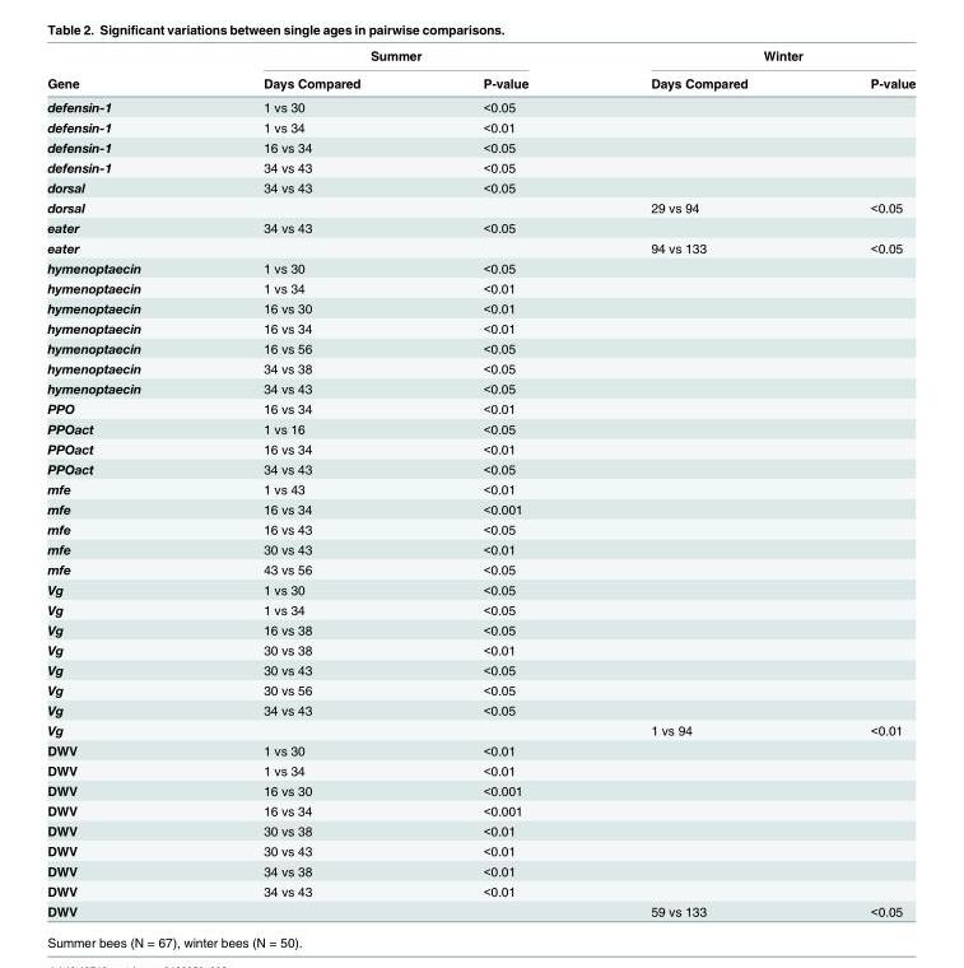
<table><thead><tr><td rowspan="2">Gene</td><td colspan="2">Summer</td><td colspan="2">Winter</td></tr><tr><td>Days Compared</td><td>P-value</td><td>Days Compared</td><td>P-value</td></tr></thead><tbody><tr><td>defensin-1</td><td>1 vs 30</td><td>&lt;0.05</td><td></td><td></td></tr><tr><td>defensin-1</td><td>1 vs 34</td><td>&lt;0.01</td><td></td><td></td></tr><tr><td>defensin-1</td><td>16 vs 34</td><td>&lt;0.05</td><td></td><td></td></tr><tr><td>defensin-1</td><td>34 vs 43</td><td>&lt;0.05</td><td></td><td></td></tr><tr><td>dorsal</td><td>34 vs 43</td><td>&lt;0.05</td><td></td><td></td></tr><tr><td>dorsal</td><td></td><td></td><td>29 vs 94</td><td>&lt;0.05</td></tr><tr><td>eater</td><td>34 vs 43</td><td>&lt;0.05</td><td></td><td></td></tr><tr><td>eater</td><td></td><td></td><td>94 vs 133</td><td>&lt;0.05</td></tr><tr><td>hymenoptaecin</td><td>1 vs 30</td><td>&lt;0.05</td><td></td><td></td></tr><tr><td>hymenoptaecin</td><td>1 vs 34</td><td>&lt;0.01</td><td></td><td></td></tr><tr><td>hymenoptaecin</td><td>16 vs 30</td><td>&lt;0.01</td><td></td><td></td></tr><tr><td>hymenoptaecin</td><td>16 vs 34</td><td>&lt;0.01</td><td></td><td></td></tr><tr><td>hymenoptaecin</td><td>16 vs 56</td><td>&lt;0.05</td><td></td><td></td></tr><tr><td>hymenoptaecin</td><td>34 vs 38</td><td>&lt;0.05</td><td></td><td></td></tr><tr><td>hymenoptaecin</td><td>34 vs 43</td><td>&lt;0.05</td><td></td><td></td></tr><tr><td>PPO</td><td>16 vs 34</td><td>&lt;0.01</td><td></td><td></td></tr><tr><td>PPOact</td><td>1 vs 16</td><td>&lt;0.05</td><td></td><td></td></tr><tr><td>PPOact</td><td>16 vs 34</td><td>&lt;0.01</td><td></td><td></td></tr><tr><td>PPOact</td><td>34 vs 43</td><td>&lt;0.05</td><td></td><td></td></tr><tr><td>mfe</td><td>1 vs 43</td><td>&lt;0.01</td><td></td><td></td></tr><tr><td>mfe</td><td>16 vs 34</td><td>&lt;0.001</td><td></td><td></td></tr><tr><td>mfe</td><td>16 vs 43</td><td>&lt;0.05</td><td></td><td></td></tr><tr><td>mfe</td><td>30 vs 43</td><td>&lt;0.01</td><td></td><td></td></tr><tr><td>mfe</td><td>43 vs 56</td><td>&lt;0.05</td><td></td><td></td></tr><tr><td>Vg</td><td>1 vs 30</td><td>&lt;0.05</td><td></td><td></td></tr><tr><td>Vg</td><td>1 vs 34</td><td>&lt;0.05</td><td></td><td></td></tr><tr><td>Vg</td><td>16 vs 38</td><td>&lt;0.05</td><td></td><td></td></tr><tr><td>Vg</td><td>30 vs 38</td><td>&lt;0.01</td><td></td><td></td></tr><tr><td>Vg</td><td>30 vs 43</td><td>&lt;0.05</td><td></td><td></td></tr><tr><td>Vg</td><td>30 vs 56</td><td>&lt;0.05</td><td></td><td></td></tr><tr><td>Vg</td><td>34 vs 43</td><td>&lt;0.05</td><td></td><td></td></tr><tr><td>Vg</td><td></td><td></td><td>1 vs 94</td><td>&lt;0.01</td></tr><tr><td>DWV</td><td>1 vs 30</td><td>&lt;0.01</td><td></td><td></td></tr><tr><td>DWV</td><td>1 vs 34</td><td>&lt;0.01</td><td></td><td></td></tr><tr><td>DWV</td><td>16 vs 30</td><td>&lt;0.001</td><td></td><td></td></tr><tr><td>DWV</td><td>16 vs 34</td><td>&lt;0.001</td><td></td><td></td></tr><tr><td>DWV</td><td>30 vs 38</td><td>&lt;0.01</td><td></td><td></td></tr><tr><td>DWV</td><td>30 vs 43</td><td>&lt;0.01</td><td></td><td></td></tr><tr><td>DWV</td><td>34 vs 38</td><td>&lt;0.01</td><td></td><td></td></tr><tr><td>DWV</td><td>34 vs 43</td><td>&lt;0.01</td><td></td><td></td></tr><tr><td>DWV</td><td></td><td></td><td>59 vs 133</td><td>&lt;0.05</td></tr></tbody></table>